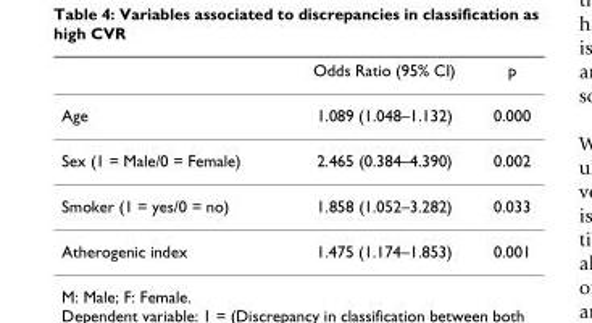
<table><thead><tr><td></td><td>Odds Ratio (95% CI)</td><td>p</td></tr></thead><tbody><tr><td>Age</td><td>1.089 (1.048–1.132)</td><td>0.000</td></tr><tr><td>Sex (1 = Male/0 = Female)</td><td>2.465 (0.384–4.390)</td><td>0.002</td></tr><tr><td>Smoker (1 = yes/0 = no)</td><td>1.858 (1.052–3.282)</td><td>0.033</td></tr><tr><td>Atherogenic index</td><td>1.475 (1.174–1.853)</td><td>0.001</td></tr></tbody></table>